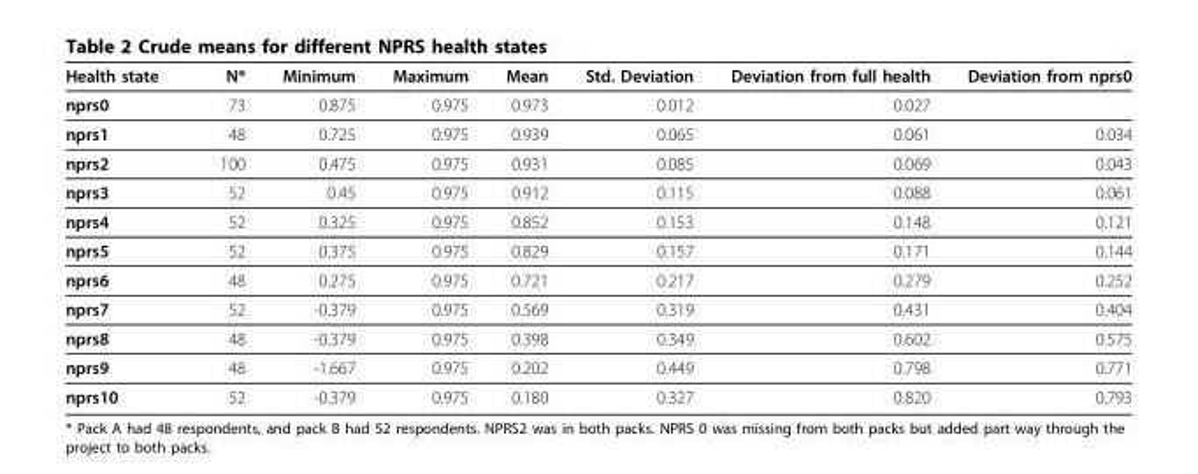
<table><thead><tr><td>Health state</td><td>N*</td><td>Minimum</td><td>Maximum</td><td>Mean</td><td>Std. Deviation</td><td>Deviation from full health</td><td>Deviation from nprs0</td></tr></thead><tbody><tr><td>nprs0</td><td>73</td><td>0.875</td><td>0.975</td><td>0.973</td><td>0.012</td><td>0.027</td><td></td></tr><tr><td>nprs1</td><td>48</td><td>0.725</td><td>0.975</td><td>0.939</td><td>0.065</td><td>0.061</td><td>0.034</td></tr><tr><td>nprs2</td><td>100</td><td>0.475</td><td>0.975</td><td>0.931</td><td>0.085</td><td>0.069</td><td>0.043</td></tr><tr><td>nprs3</td><td>52</td><td>0.45</td><td>0.975</td><td>0.912</td><td>0.115</td><td>0.088</td><td>0.061</td></tr><tr><td>nprs4</td><td>52</td><td>0.325</td><td>0.975</td><td>0.852</td><td>0.153</td><td>0.148</td><td>0.121</td></tr><tr><td>nprs5</td><td>52</td><td>0.375</td><td>0.975</td><td>0.829</td><td>0.157</td><td>0.171</td><td>0.144</td></tr><tr><td>nprs6</td><td>48</td><td>0.275</td><td>0.975</td><td>0.721</td><td>0.217</td><td>0.279</td><td>0.252</td></tr><tr><td>nprs7</td><td>52</td><td>-0.379</td><td>0.975</td><td>0.569</td><td>0.319</td><td>0.431</td><td>0.404</td></tr><tr><td>nprs8</td><td>48</td><td>-0.379</td><td>0.975</td><td>0.398</td><td>0.349</td><td>0.602</td><td>0.575</td></tr><tr><td>nprs9</td><td>48</td><td>-1.667</td><td>0.975</td><td>0.202</td><td>0.449</td><td>0.798</td><td>0.771</td></tr><tr><td>nprs10</td><td>52</td><td>-0.379</td><td>0.975</td><td>0.180</td><td>0.327</td><td>0.820</td><td>0.793</td></tr></tbody></table>